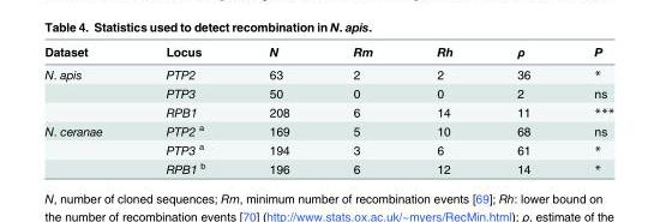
<table><thead><tr><td>Dataset</td><td>Locus</td><td>N</td><td>Rm</td><td>Rh</td><td>ρ</td><td>P</td></tr></thead><tbody><tr><td rowspan="3">N. apis</td><td>PTP2</td><td>63</td><td>2</td><td>2</td><td>36</td><td>*</td></tr><tr><td>PTP3</td><td>50</td><td>0</td><td>0</td><td>2</td><td>ns</td></tr><tr><td>RPB1</td><td>208</td><td>6</td><td>14</td><td>11</td><td>***</td></tr><tr><td rowspan="3">N. ceranae</td><td>PTP2 <sup>a</sup></td><td>169</td><td>5</td><td>10</td><td>68</td><td>ns</td></tr><tr><td>PTP3 <sup>a</sup></td><td>194</td><td>3</td><td>6</td><td>61</td><td>*</td></tr><tr><td>RPB1 <sup>b</sup></td><td>196</td><td>6</td><td>12</td><td>14</td><td>*</td></tr></tbody></table>